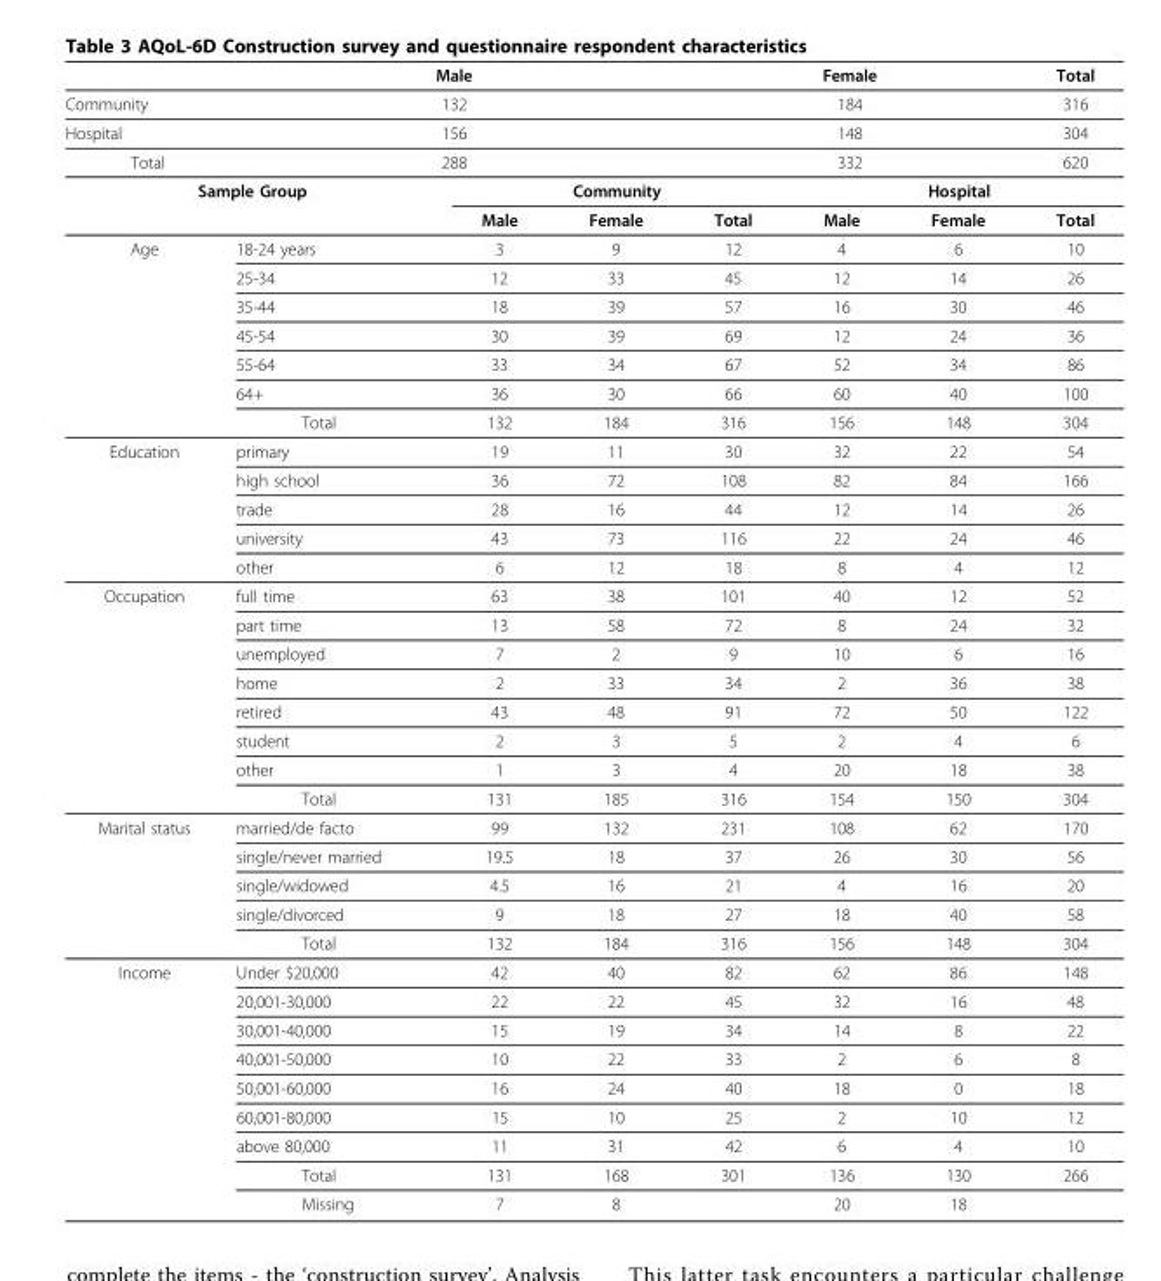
<table><thead><tr><td></td><td colspan="3">Male</td><td colspan="3">Female</td><td>Total</td></tr></thead><tbody><tr><td>Community</td><td colspan="3">132</td><td colspan="3">184</td><td>316</td></tr><tr><td>Hospital</td><td colspan="3">156</td><td colspan="3">148</td><td>304</td></tr><tr><td>Total</td><td colspan="3">288</td><td colspan="3">332</td><td>620</td></tr><tr><td colspan="2">Sample Group</td><td colspan="3">Community</td><td colspan="3">Hospital</td></tr><tr><td></td><td></td><td>Male</td><td>Female</td><td>Total</td><td>Male</td><td>Female</td><td>Total</td></tr><tr><td rowspan="7">Age</td><td>18-24 years</td><td>3</td><td>9</td><td>12</td><td>4</td><td>6</td><td>10</td></tr><tr><td>25-34</td><td>12</td><td>33</td><td>45</td><td>12</td><td>14</td><td>26</td></tr><tr><td>35-44</td><td>18</td><td>39</td><td>57</td><td>16</td><td>30</td><td>46</td></tr><tr><td>45-54</td><td>30</td><td>39</td><td>69</td><td>12</td><td>24</td><td>36</td></tr><tr><td>55-64</td><td>33</td><td>34</td><td>67</td><td>52</td><td>34</td><td>86</td></tr><tr><td>64+</td><td>36</td><td>30</td><td>66</td><td>60</td><td>40</td><td>100</td></tr><tr><td>Total</td><td>132</td><td>184</td><td>316</td><td>156</td><td>148</td><td>304</td></tr><tr><td rowspan="5">Education</td><td>primary</td><td>19</td><td>11</td><td>30</td><td>32</td><td>22</td><td>54</td></tr><tr><td>high school</td><td>36</td><td>72</td><td>108</td><td>82</td><td>84</td><td>166</td></tr><tr><td>trade</td><td>28</td><td>16</td><td>44</td><td>12</td><td>14</td><td>26</td></tr><tr><td>university</td><td>43</td><td>73</td><td>116</td><td>22</td><td>24</td><td>46</td></tr><tr><td>other</td><td>6</td><td>12</td><td>18</td><td>8</td><td>4</td><td>12</td></tr><tr><td rowspan="8">Occupation</td><td>full time</td><td>63</td><td>38</td><td>101</td><td>40</td><td>12</td><td>52</td></tr><tr><td>part time</td><td>13</td><td>58</td><td>72</td><td>8</td><td>24</td><td>32</td></tr><tr><td>unemployed</td><td>7</td><td>2</td><td>9</td><td>10</td><td>6</td><td>16</td></tr><tr><td>home</td><td>2</td><td>33</td><td>34</td><td>2</td><td>36</td><td>38</td></tr><tr><td>retired</td><td>43</td><td>48</td><td>91</td><td>72</td><td>50</td><td>122</td></tr><tr><td>student</td><td>2</td><td>3</td><td>5</td><td>2</td><td>4</td><td>6</td></tr><tr><td>other</td><td>1</td><td>3</td><td>4</td><td>20</td><td>18</td><td>38</td></tr><tr><td>Total</td><td>131</td><td>185</td><td>316</td><td>154</td><td>150</td><td>304</td></tr><tr><td rowspan="5">Marital status</td><td>married/de facto</td><td>99</td><td>132</td><td>231</td><td>108</td><td>62</td><td>170</td></tr><tr><td>single/never married</td><td>19.5</td><td>18</td><td>37</td><td>26</td><td>30</td><td>56</td></tr><tr><td>single/widowed</td><td>4.5</td><td>16</td><td>21</td><td>4</td><td>16</td><td>20</td></tr><tr><td>single/divorced</td><td>9</td><td>18</td><td>27</td><td>18</td><td>40</td><td>58</td></tr><tr><td>Total</td><td>132</td><td>184</td><td>316</td><td>156</td><td>148</td><td>304</td></tr><tr><td rowspan="9">Income</td><td>Under $20,000</td><td>42</td><td>40</td><td>82</td><td>62</td><td>86</td><td>148</td></tr><tr><td>20,001-30,000</td><td>22</td><td>22</td><td>45</td><td>32</td><td>16</td><td>48</td></tr><tr><td>30,001-40,000</td><td>15</td><td>19</td><td>34</td><td>14</td><td>8</td><td>22</td></tr><tr><td>40,001-50,000</td><td>10</td><td>22</td><td>33</td><td>2</td><td>6</td><td>8</td></tr><tr><td>50,001-60,000</td><td>16</td><td>24</td><td>40</td><td>18</td><td>0</td><td>18</td></tr><tr><td>60,001-80,000</td><td>15</td><td>10</td><td>25</td><td>2</td><td>10</td><td>12</td></tr><tr><td>above 80,000</td><td>11</td><td>31</td><td>42</td><td>6</td><td>4</td><td>10</td></tr><tr><td>Total</td><td>131</td><td>168</td><td>301</td><td>136</td><td>130</td><td>266</td></tr><tr><td>Missing</td><td>7</td><td>8</td><td></td><td>20</td><td>18</td><td></td></tr></tbody></table>